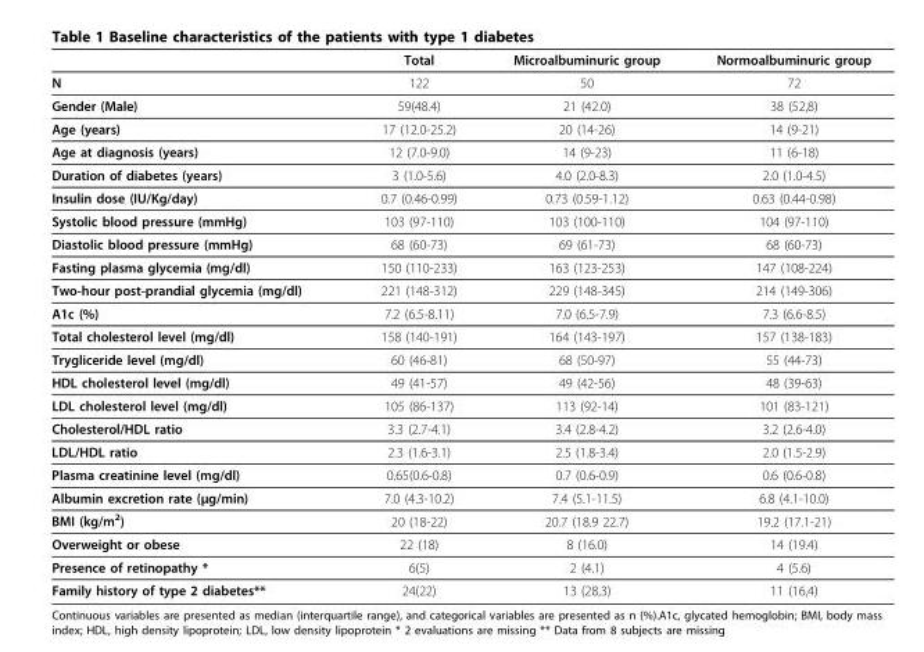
<table><thead><tr><td></td><td>Total</td><td>Microalbuminuric group</td><td>Normoalbuminuric group</td></tr></thead><tbody><tr><td>N</td><td>122</td><td>50</td><td>72</td></tr><tr><td>Gender (Male)</td><td>59(48.4)</td><td>21 (42.0)</td><td>38 (52,8)</td></tr><tr><td>Age (years)</td><td>17 (12.0-25.2)</td><td>20 (14-26)</td><td>14 (9-21)</td></tr><tr><td>Age at diagnosis (years)</td><td>12 (7.0-9.0)</td><td>14 (9-23)</td><td>11 (6-18)</td></tr><tr><td>Duration of diabetes (years)</td><td>3 (1.0-5.6)</td><td>4.0 (2.0-8.3)</td><td>2.0 (1.0-4.5)</td></tr><tr><td>Insulin dose (IU/Kg/day)</td><td>0.7 (0.46-0.99)</td><td>0.73 (0.59-1.12)</td><td>0.63 (0.44-0.98)</td></tr><tr><td>Systolic blood pressure (mmHg)</td><td>103 (97-110)</td><td>103 (100-110)</td><td>104 (97-110)</td></tr><tr><td>Diastolic blood pressure (mmHg)</td><td>68 (60-73)</td><td>69 (61-73)</td><td>68 (60-73)</td></tr><tr><td>Fasting plasma glycemia (mg/dl)</td><td>150 (110-233)</td><td>163 (123-253)</td><td>147 (108-224)</td></tr><tr><td>Two-hour post-prandial glycemia (mg/dl)</td><td>221 (148-312)</td><td>229 (148-345)</td><td>214 (149-306)</td></tr><tr><td>A1c (%)</td><td>7.2 (6.5-8.11)</td><td>7.0 (6.5-7.9)</td><td>7.3 (6.6-8.5)</td></tr><tr><td>Total cholesterol level (mg/dl)</td><td>158 (140-191)</td><td>164 (143-197)</td><td>157 (138-183)</td></tr><tr><td>Trygliceride level (mg/dl)</td><td>60 (46-81)</td><td>68 (50-97)</td><td>55 (44-73)</td></tr><tr><td>HDL cholesterol level (mg/dl)</td><td>49 (41-57)</td><td>49 (42-56)</td><td>48 (39-63)</td></tr><tr><td>LDL cholesterol level (mg/dl)</td><td>105 (86-137)</td><td>113 (92-14)</td><td>101 (83-121)</td></tr><tr><td>Cholesterol/HDL ratio</td><td>3.3 (2.7-4.1)</td><td>3.4 (2.8-4.2)</td><td>3.2 (2.6-4.0)</td></tr><tr><td>LDL/HDL ratio</td><td>2.3 (1.6-3.1)</td><td>2.5 (1.8-3.4)</td><td>2.0 (1.5-2.9)</td></tr><tr><td>Plasma creatinine level (mg/dl)</td><td>0.65(0.6-0.8)</td><td>0.7 (0.6-0.9)</td><td>0.6 (0.6-0.8)</td></tr><tr><td>Albumin excretion rate (μg/min)</td><td>7.0 (4.3-10.2)</td><td>7.4 (5.1-11.5)</td><td>6.8 (4.1-10.0)</td></tr><tr><td>BMI (kg/m<sup>2</sup>)</td><td>20 (18-22)</td><td>20.7 (18.9 22.7)</td><td>19.2 (17.1-21)</td></tr><tr><td>Overweight or obese</td><td>22 (18)</td><td>8 (16.0)</td><td>14 (19.4)</td></tr><tr><td>Presence of retinopathy *</td><td>6(5)</td><td>2 (4.1)</td><td>4 (5.6)</td></tr><tr><td>Family history of type 2 diabetes**</td><td>24(22)</td><td>13 (28,3)</td><td>11 (16,4)</td></tr></tbody></table>